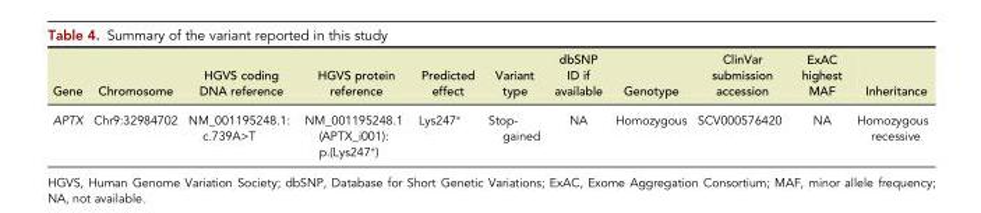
<table><thead><tr><td>Gene</td><td>Chromosome</td><td>HGVS coding DNA reference</td><td>HGVS protein reference</td><td>Predicted effect</td><td>Variant type</td><td>dbSNP ID if available</td><td>Genotype</td><td>ClinVar submission accession</td><td>ExAC highest MAF</td><td>Inheritance</td></tr></thead><tbody><tr><td>APTX</td><td>Chr9:32984702</td><td>NM_001195248.1: c.739A&gt;T</td><td>NM_001195248.1 (APTX_i001): p.(Lys247∗)</td><td>Lys247∗</td><td>Stop- gained</td><td>NA</td><td>Homozygous</td><td>SCV000576420</td><td>NA</td><td>Homozygous recessive</td></tr></tbody></table>